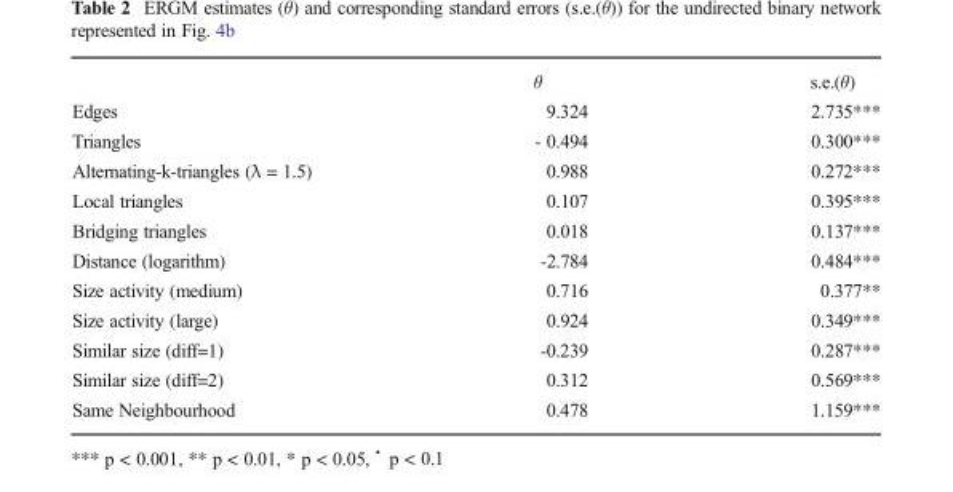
<table><thead><tr><td></td><td>θ</td><td>s.e.(θ)</td></tr></thead><tbody><tr><td>Edges</td><td>9.324</td><td>2.735***</td></tr><tr><td>Triangles</td><td>- 0.494</td><td>0.300***</td></tr><tr><td>Alternating-k-triangles (λ = 1.5)</td><td>0.988</td><td>0.272***</td></tr><tr><td>Local triangles</td><td>0.107</td><td>0.395***</td></tr><tr><td>Bridging triangles</td><td>0.018</td><td>0.137***</td></tr><tr><td>Distance (logarithm)</td><td>-2.784</td><td>0.484***</td></tr><tr><td>Size activity (medium)</td><td>0.716</td><td>0.377**</td></tr><tr><td>Size activity (large)</td><td>0.924</td><td>0.349***</td></tr><tr><td>Similar size (diff=1)</td><td>-0.239</td><td>0.287***</td></tr><tr><td>Similar size (diff=2)</td><td>0.312</td><td>0.569***</td></tr><tr><td>Same Neighbourhood</td><td>0.478</td><td>1.159***</td></tr></tbody></table>